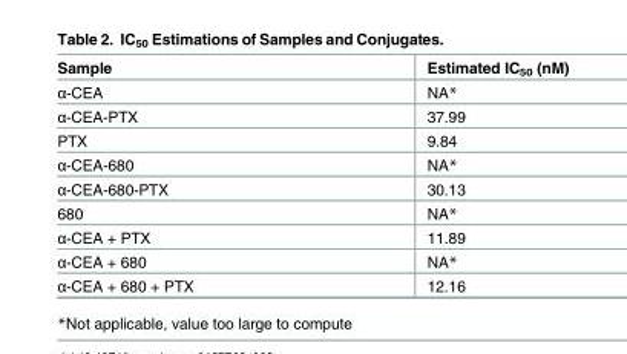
<table><thead><tr><td>Sample</td><td>Estimated IC<sub>50</sub> (nM)</td></tr></thead><tbody><tr><td>α-CEA</td><td>NA*</td></tr><tr><td>α-CEA-PTX</td><td>37.99</td></tr><tr><td>PTX</td><td>9.84</td></tr><tr><td>α-CEA-680</td><td>NA*</td></tr><tr><td>α-CEA-680-PTX</td><td>30.13</td></tr><tr><td>680</td><td>NA*</td></tr><tr><td>α-CEA + PTX</td><td>11.89</td></tr><tr><td>α-CEA + 680</td><td>NA*</td></tr><tr><td>α-CEA + 680 + PTX</td><td>12.16</td></tr></tbody></table>